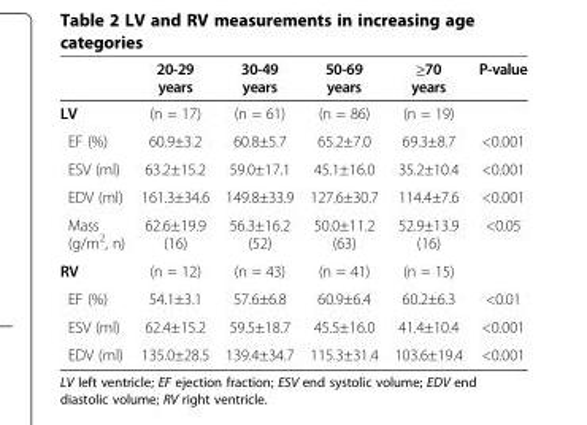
<table><thead><tr><td></td><td>20-29 years</td><td>30-49 years</td><td>50-69 years</td><td>≥70 years</td><td>P-value</td></tr></thead><tbody><tr><td>LV</td><td>(n = 17)</td><td>(n = 61)</td><td>(n = 86)</td><td>(n = 19)</td><td></td></tr><tr><td>EF (%)</td><td>60.9±3.2</td><td>60.8±5.7</td><td>65.2±7.0</td><td>69.3±8.7</td><td>&lt;0.001</td></tr><tr><td>ESV (ml)</td><td>63.2±15.2</td><td>59.0±17.1</td><td>45.1±16.0</td><td>35.2±10.4</td><td>&lt;0.001</td></tr><tr><td>EDV (ml)</td><td>161.3±34.6</td><td>149.8±33.9</td><td>127.6±30.7</td><td>114.4±7.6</td><td>&lt;0.001</td></tr><tr><td>Mass (g/m<sup>2</sup>, n)</td><td>62.6±19.9 (16)</td><td>56.3±16.2 (52)</td><td>50.0±11.2 (63)</td><td>52.9±13.9 (16)</td><td>&lt;0.05</td></tr><tr><td>RV</td><td>(n = 12)</td><td>(n = 43)</td><td>(n = 41)</td><td>(n = 15)</td><td></td></tr><tr><td>EF (%)</td><td>54.1±3.1</td><td>57.6±6.8</td><td>60.9±6.4</td><td>60.2±6.3</td><td>&lt;0.01</td></tr><tr><td>ESV (ml)</td><td>62.4±15.2</td><td>59.5±18.7</td><td>45.5±16.0</td><td>41.4±10.4</td><td>&lt;0.001</td></tr><tr><td>EDV (ml)</td><td>135.0±28.5</td><td>139.4±34.7</td><td>115.3±31.4</td><td>103.6±19.4</td><td>&lt;0.001</td></tr></tbody></table>